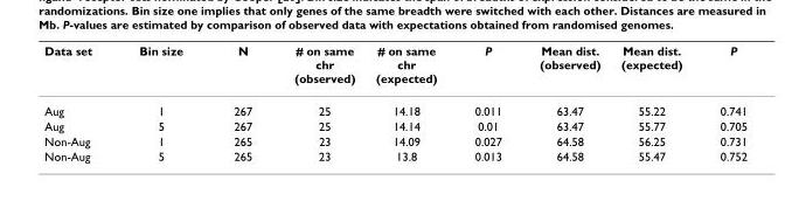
<table><thead><tr><td>Data set</td><td>Bin size</td><td>N</td><td># on same chr (observed)</td><td># on same chr (expected)</td><td>P</td><td>Mean dist. (observed)</td><td>Mean dist. (expected)</td><td>P</td></tr></thead><tbody><tr><td>Aug</td><td>1</td><td>267</td><td>25</td><td>14.18</td><td>0.011</td><td>63.47</td><td>55.22</td><td>0.741</td></tr><tr><td>Aug</td><td>5</td><td>267</td><td>25</td><td>14.14</td><td>0.01</td><td>63.47</td><td>55.77</td><td>0.705</td></tr><tr><td>Non-Aug</td><td>1</td><td>265</td><td>23</td><td>14.09</td><td>0.027</td><td>64.58</td><td>56.25</td><td>0.731</td></tr><tr><td>Non-Aug</td><td>5</td><td>265</td><td>23</td><td>13.8</td><td>0.013</td><td>64.58</td><td>55.47</td><td>0.752</td></tr></tbody></table>